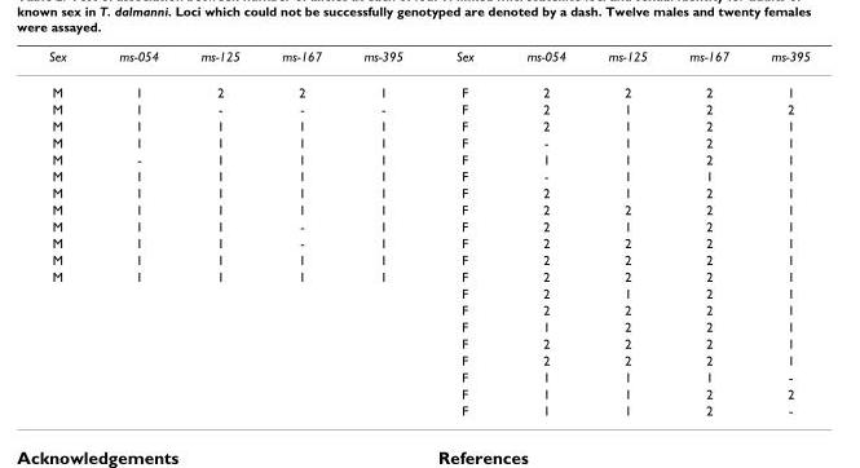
<table><thead><tr><td>Sex</td><td>ms-054</td><td>ms-125</td><td>ms-167</td><td>ms-395</td><td>Sex</td><td>ms-054</td><td>ms-125</td><td>ms-167</td><td>ms-395</td></tr></thead><tbody><tr><td>M</td><td>1</td><td>2</td><td>2</td><td>1</td><td>F</td><td>2</td><td>2</td><td>2</td><td>1</td></tr><tr><td>M</td><td>1</td><td>-</td><td>-</td><td>-</td><td>F</td><td>2</td><td>1</td><td>2</td><td>2</td></tr><tr><td>M</td><td>1</td><td>1</td><td>1</td><td>1</td><td>F</td><td>2</td><td>1</td><td>2</td><td>1</td></tr><tr><td>M</td><td>1</td><td>1</td><td>1</td><td>1</td><td>F</td><td>-</td><td>1</td><td>2</td><td>1</td></tr><tr><td>M</td><td>-</td><td>1</td><td>1</td><td>1</td><td>F</td><td>1</td><td>1</td><td>2</td><td>1</td></tr><tr><td>M</td><td>1</td><td>1</td><td>1</td><td>1</td><td>F</td><td>-</td><td>1</td><td>1</td><td>1</td></tr><tr><td>M</td><td>1</td><td>1</td><td>1</td><td>1</td><td>F</td><td>2</td><td>1</td><td>2</td><td>1</td></tr><tr><td>M</td><td>1</td><td>1</td><td>1</td><td>1</td><td>F</td><td>2</td><td>2</td><td>2</td><td>1</td></tr><tr><td>M</td><td>1</td><td>1</td><td>-</td><td>1</td><td>F</td><td>2</td><td>1</td><td>2</td><td>1</td></tr><tr><td>M</td><td>1</td><td>1</td><td>-</td><td>1</td><td>F</td><td>2</td><td>2</td><td>2</td><td>1</td></tr><tr><td>M</td><td>1</td><td>1</td><td>1</td><td>1</td><td>F</td><td>2</td><td>2</td><td>2</td><td>1</td></tr><tr><td rowspan="9">M</td><td>1</td><td>1</td><td>1</td><td>1</td><td>F</td><td>2</td><td>2</td><td>2</td><td>1</td></tr><tr><td></td><td></td><td></td><td></td><td>F</td><td>2</td><td>1</td><td>2</td><td>1</td></tr><tr><td></td><td></td><td></td><td></td><td>F</td><td>2</td><td>2</td><td>2</td><td>1</td></tr><tr><td></td><td></td><td></td><td></td><td>F</td><td>1</td><td>2</td><td>2</td><td>1</td></tr><tr><td></td><td></td><td></td><td></td><td>F</td><td>2</td><td>2</td><td>2</td><td>1</td></tr><tr><td></td><td></td><td></td><td></td><td>F</td><td>2</td><td>2</td><td>2</td><td>1</td></tr><tr><td></td><td></td><td></td><td></td><td>F</td><td>1</td><td>1</td><td>1</td><td>-</td></tr><tr><td></td><td></td><td></td><td></td><td>F</td><td>1</td><td>1</td><td>2</td><td>2</td></tr><tr><td></td><td></td><td></td><td></td><td>F</td><td>1</td><td>1</td><td>2</td><td>-</td></tr></tbody></table>